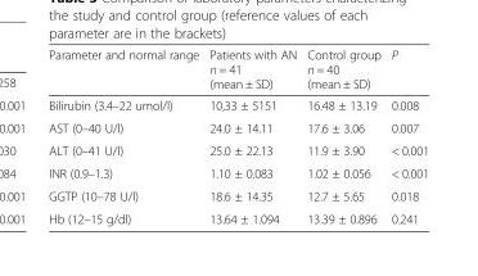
<table><thead><tr><td>Parameter and normal range</td><td>Patients with AN n = 41 (mean ± SD)</td><td>Control group n = 40 (mean ± SD)</td><td>P</td></tr></thead><tbody><tr><td>Bilirubin (3.4–22 umol/l)</td><td>10,33 ± 5151</td><td>16.48 ± 13.19</td><td>0.008</td></tr><tr><td>AST (0–40 U/l)</td><td>24.0 ± 14.11</td><td>17.6 ± 3.06</td><td>0.007</td></tr><tr><td>ALT (0–41 U/l)</td><td>25.0 ± 22.13</td><td>11.9 ± 3.90</td><td>&lt; 0.001</td></tr><tr><td>INR (0.9–1.3)</td><td>1.10 ± 0.083</td><td>1.02 ± 0.056</td><td>&lt; 0.001</td></tr><tr><td>GGTP (10–78 U/l)</td><td>18.6 ± 14.35</td><td>12.7 ± 5.65</td><td>0.018</td></tr><tr><td>Hb (12–15 g/dl)</td><td>13.64 ± 1.094</td><td>13.39 ± 0.896</td><td>0.241</td></tr></tbody></table>